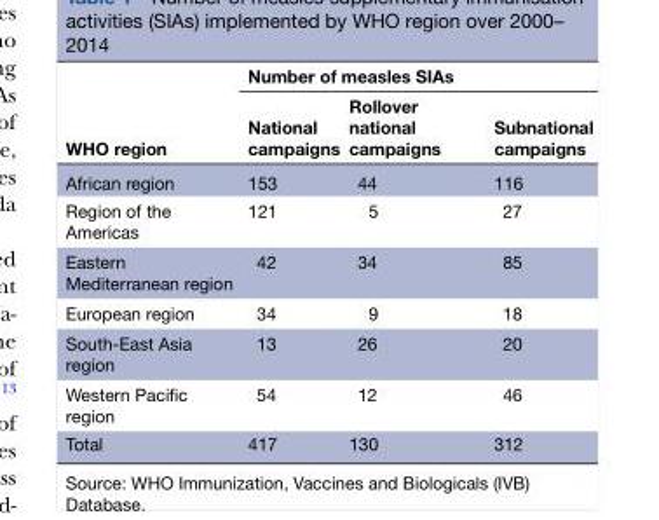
<table><thead><tr><td rowspan="2">WHO region</td><td colspan="3">Number of measles SIAs</td></tr><tr><td>National campaigns</td><td>Rollover national campaigns</td><td>Subnational campaigns</td></tr></thead><tbody><tr><td>African region</td><td>153</td><td>44</td><td>116</td></tr><tr><td>Region of the Americas</td><td>121</td><td>5</td><td>27</td></tr><tr><td>Eastern Mediterranean region</td><td>42</td><td>34</td><td>85</td></tr><tr><td>European region</td><td>34</td><td>9</td><td>18</td></tr><tr><td>South-East Asia region</td><td>13</td><td>26</td><td>20</td></tr><tr><td>Western Pacific region</td><td>54</td><td>12</td><td>46</td></tr><tr><td>Total</td><td>417</td><td>130</td><td>312</td></tr></tbody></table>